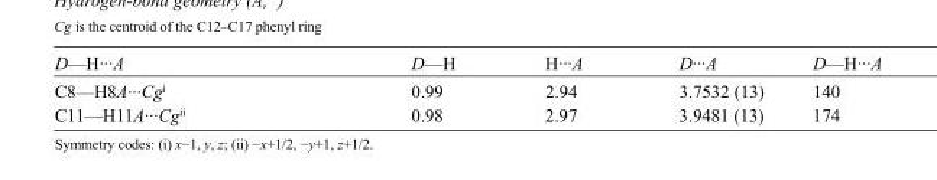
<table><tbody><tr><td>D—H···A</td><td>D—H</td><td>H···A</td><td>D···A</td><td>D—H···A</td></tr><tr><td>C8—H8A···Cg<sup>i</sup></td><td>0.99</td><td>2.94</td><td>3.7532 (13)</td><td>140</td></tr><tr><td>C11—H11A···Cg<sup>ii</sup></td><td>0.98</td><td>2.97</td><td>3.9481 (13)</td><td>174</td></tr></tbody></table>